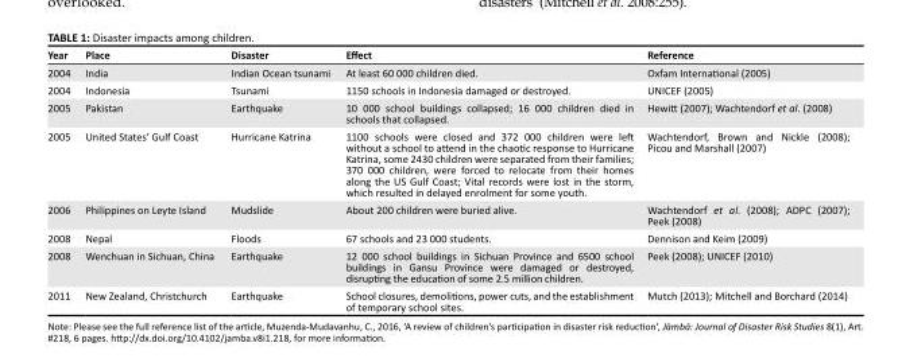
<table><thead><tr><td>Year</td><td>Place</td><td>Disaster</td><td>Effect</td><td>Reference</td></tr></thead><tbody><tr><td>2004</td><td>India</td><td>Indian Ocean tsunami</td><td>At least 60 000 children died.</td><td>Oxfam International (2005)</td></tr><tr><td>2004</td><td>Indonesia</td><td>Tsunami</td><td>1150 schools in Indonesia damaged or destroyed.</td><td>UNICEF (2005)</td></tr><tr><td>2005</td><td>Pakistan</td><td>Earthquake</td><td>10 000 school buildings collapsed; 16 000 children died in schools that collapsed.</td><td>Hewitt (2007); Wachtendorf et al. (2008)</td></tr><tr><td>2005</td><td>United States’ Gulf Coast</td><td>Hurricane Katrina</td><td>1100 schools were closed and 372 000 children were left without a school to attend in the chaotic response to Hurricane Katrina, some 2430 children were separated from their families; 370 000 children, were forced to relocate from their homes along the US Gulf Coast; Vital records were lost in the storm, which resulted in delayed enrolment for some youth.</td><td>Wachtendorf, Brown and Nickle (2008); Picou and Marshall (2007)</td></tr><tr><td>2006</td><td>Philippines on Leyte Island</td><td>Mudslide</td><td>About 200 children were buried alive.</td><td>Wachtendorf et al. (2008); ADPC (2007); Peek (2008)</td></tr><tr><td>2008</td><td>Nepal</td><td>Floods</td><td>67 schools and 23 000 students.</td><td>Dennison and Keim (2009)</td></tr><tr><td>2008</td><td>Wenchuan in Sichuan, China</td><td>Earthquake</td><td>12 000 school buildings in Sichuan Province and 6500 school buildings in Gansu Province were damaged or destroyed, disrupting the education of some 2.5 million children.</td><td>Peek (2008); UNICEF (2010)</td></tr><tr><td>2011</td><td>New Zealand, Christchurch</td><td>Earthquake</td><td>School closures, demolitions, power cuts, and the establishment of temporary school sites.</td><td>Mutch (2013); Mitchell and Borchard (2014)</td></tr></tbody></table>